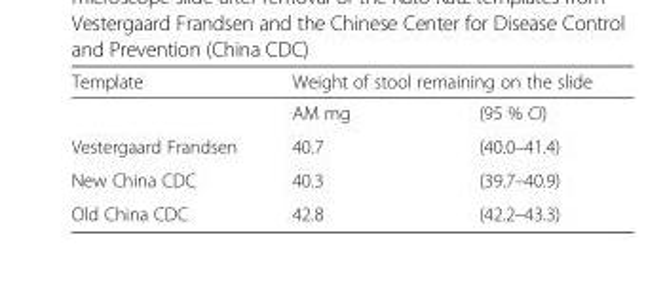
<table><thead><tr><td rowspan="2">Template</td><td colspan="2">Weight of stool remaining on the slide</td></tr><tr><td>AM mg</td><td>(95 % CI)</td></tr></thead><tbody><tr><td>Vestergaard Frandsen</td><td>40.7</td><td>(40.0–41.4)</td></tr><tr><td>New China CDC</td><td>40.3</td><td>(39.7–40.9)</td></tr><tr><td>Old China CDC</td><td>42.8</td><td>(42.2–43.3)</td></tr></tbody></table>